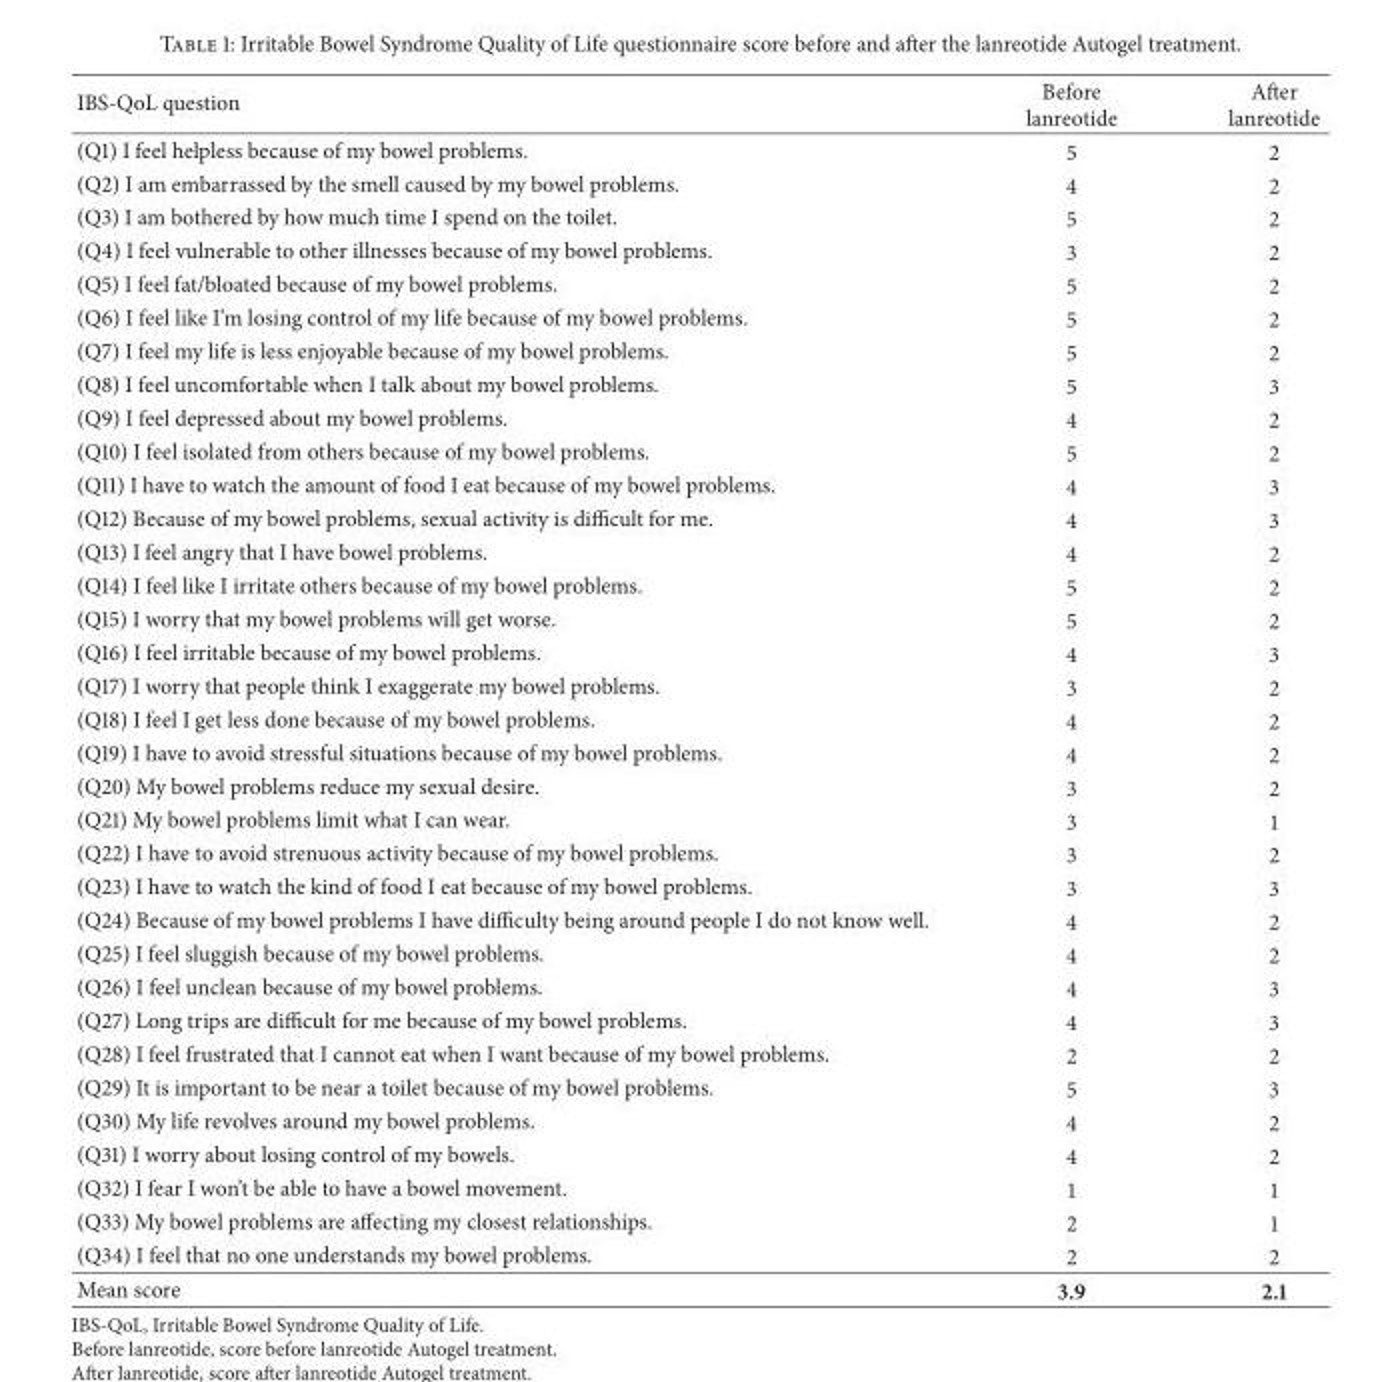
<table><thead><tr><td>IBS-QoL question</td><td>Before lanreotide</td><td>After lanreotide</td></tr></thead><tbody><tr><td>(Q1) I feel helpless because of my bowel problems.</td><td>5</td><td>2</td></tr><tr><td>(Q2) I am embarrassed by the smell caused by my bowel problems.</td><td>4</td><td>2</td></tr><tr><td>(Q3) I am bothered by how much time I spend on the toilet.</td><td>5</td><td>2</td></tr><tr><td>(Q4) I feel vulnerable to other illnesses because of my bowel problems.</td><td>3</td><td>2</td></tr><tr><td>(Q5) I feel fat/bloated because of my bowel problems.</td><td>5</td><td>2</td></tr><tr><td>(Q6) I feel like I’m losing control of my life because of my bowel problems.</td><td>5</td><td>2</td></tr><tr><td>(Q7) I feel my life is less enjoyable because of my bowel problems.</td><td>5</td><td>2</td></tr><tr><td>(Q8) I feel uncomfortable when I talk about my bowel problems.</td><td>5</td><td>3</td></tr><tr><td>(Q9) I feel depressed about my bowel problems.</td><td>4</td><td>2</td></tr><tr><td>(Q10) I feel isolated from others because of my bowel problems.</td><td>5</td><td>2</td></tr><tr><td>(Q11) I have to watch the amount of food I eat because of my bowel problems.</td><td>4</td><td>3</td></tr><tr><td>(Q12) Because of my bowel problems, sexual activity is difficult for me.</td><td>4</td><td>3</td></tr><tr><td>(Q13) I feel angry that I have bowel problems.</td><td>4</td><td>2</td></tr><tr><td>(Q14) I feel like I irritate others because of my bowel problems.</td><td>5</td><td>2</td></tr><tr><td>(Q15) I worry that my bowel problems will get worse.</td><td>5</td><td>2</td></tr><tr><td>(Q16) I feel irritable because of my bowel problems.</td><td>4</td><td>3</td></tr><tr><td>(Q17) I worry that people think I exaggerate my bowel problems.</td><td>3</td><td>2</td></tr><tr><td>(Q18) I feel I get less done because of my bowel problems.</td><td>4</td><td>2</td></tr><tr><td>(Q19) I have to avoid stressful situations because of my bowel problems.</td><td>4</td><td>2</td></tr><tr><td>(Q20) My bowel problems reduce my sexual desire.</td><td>3</td><td>2</td></tr><tr><td>(Q21) My bowel problems limit what I can wear.</td><td>3</td><td>1</td></tr><tr><td>(Q22) I have to avoid strenuous activity because of my bowel problems.</td><td>3</td><td>2</td></tr><tr><td>(Q23) I have to watch the kind of food I eat because of my bowel problems.</td><td>3</td><td>3</td></tr><tr><td>(Q24) Because of my bowel problems I have difficulty being around people I do not know well.</td><td>4</td><td>2</td></tr><tr><td>(Q25) I feel sluggish because of my bowel problems.</td><td>4</td><td>2</td></tr><tr><td>(Q26) I feel unclean because of my bowel problems.</td><td>4</td><td>3</td></tr><tr><td>(Q27) Long trips are difficult for me because of my bowel problems.</td><td>4</td><td>3</td></tr><tr><td>(Q28) I feel frustrated that I cannot eat when I want because of my bowel problems.</td><td>2</td><td>2</td></tr><tr><td>(Q29) It is important to be near a toilet because of my bowel problems.</td><td>5</td><td>3</td></tr><tr><td>(Q30) My life revolves around my bowel problems.</td><td>4</td><td>2</td></tr><tr><td>(Q31) I worry about losing control of my bowels.</td><td>4</td><td>2</td></tr><tr><td>(Q32) I fear I won’t be able to have a bowel movement.</td><td>1</td><td>1</td></tr><tr><td>(Q33) My bowel problems are affecting my closest relationships.</td><td>2</td><td>1</td></tr><tr><td>(Q34) I feel that no one understands my bowel problems.</td><td>2</td><td>2</td></tr><tr><td>Mean score</td><td>3.9</td><td>2.1</td></tr></tbody></table>